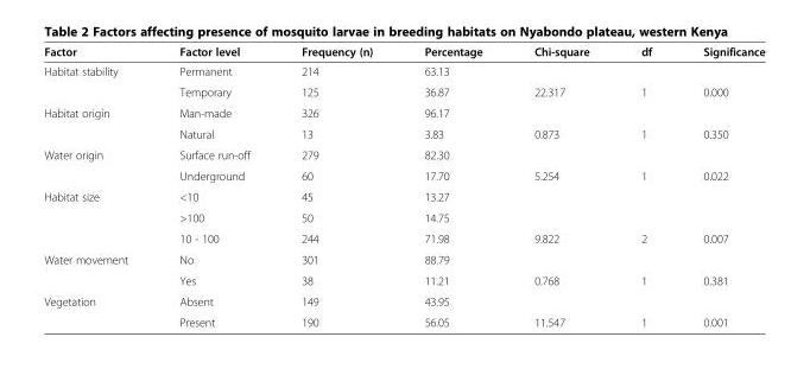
<table><thead><tr><td>Factor</td><td>Factor level</td><td>Frequency (n)</td><td>Percentage</td><td>Chi-square</td><td>df</td><td>Significance</td></tr></thead><tbody><tr><td rowspan="2">Habitat stability</td><td>Permanent</td><td>214</td><td>63.13</td><td></td><td></td><td></td></tr><tr><td>Temporary</td><td>125</td><td>36.87</td><td>22.317</td><td>1</td><td>0.000</td></tr><tr><td rowspan="2">Habitat origin</td><td>Man-made</td><td>326</td><td>96.17</td><td></td><td></td><td></td></tr><tr><td>Natural</td><td>13</td><td>3.83</td><td>0.873</td><td>1</td><td>0.350</td></tr><tr><td rowspan="2">Water origin</td><td>Surface run-off</td><td>279</td><td>82.30</td><td></td><td></td><td></td></tr><tr><td>Underground</td><td>60</td><td>17.70</td><td>5.254</td><td>1</td><td>0.022</td></tr><tr><td rowspan="3">Habitat size</td><td>&lt;10</td><td>45</td><td>13.27</td><td></td><td></td><td></td></tr><tr><td>&gt;100</td><td>50</td><td>14.75</td><td></td><td></td><td></td></tr><tr><td>10 - 100</td><td>244</td><td>71.98</td><td>9.822</td><td>2</td><td>0.007</td></tr><tr><td rowspan="2">Water movement</td><td>No</td><td>301</td><td>88.79</td><td></td><td></td><td></td></tr><tr><td>Yes</td><td>38</td><td>11.21</td><td>0.768</td><td>1</td><td>0.381</td></tr><tr><td rowspan="2">Vegetation</td><td>Absent</td><td>149</td><td>43.95</td><td></td><td></td><td></td></tr><tr><td>Present</td><td>190</td><td>56.05</td><td>11.547</td><td>1</td><td>0.001</td></tr></tbody></table>